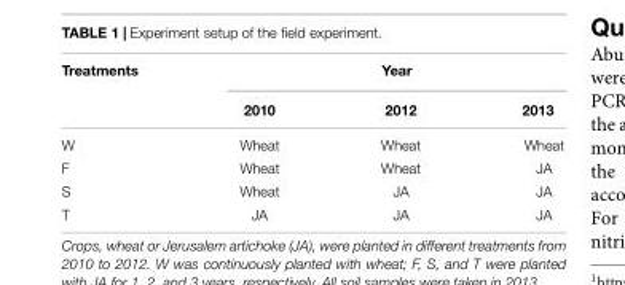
<table><thead><tr><td rowspan="2">Treatments</td><td colspan="3">Year</td></tr><tr><td>2010</td><td>2012</td><td>2013</td></tr></thead><tbody><tr><td>W</td><td>Wheat</td><td>Wheat</td><td>Wheat</td></tr><tr><td>F</td><td>Wheat</td><td>Wheat</td><td>JA</td></tr><tr><td>S</td><td>Wheat</td><td>JA</td><td>JA</td></tr><tr><td>T</td><td>JA</td><td>JA</td><td>JA</td></tr></tbody></table>